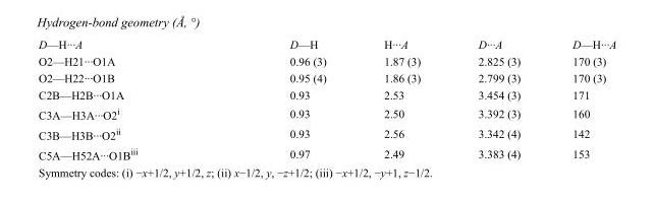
<table><tbody><tr><td>D—H···A</td><td>D—H</td><td>H···A</td><td>D···A</td><td>D—H···A</td></tr><tr><td>O2—H21···O1A</td><td>0.96 (3)</td><td>1.87 (3)</td><td>2.825 (3)</td><td>170 (3)</td></tr><tr><td>O2—H22···O1B</td><td>0.95 (4)</td><td>1.86 (3)</td><td>2.799 (3)</td><td>170 (3)</td></tr><tr><td>C2B—H2B···O1A</td><td>0.93</td><td>2.53</td><td>3.454 (3)</td><td>171</td></tr><tr><td>C3A—H3A···O2<sup>i</sup></td><td>0.93</td><td>2.50</td><td>3.392 (3)</td><td>160</td></tr><tr><td>C3B—H3B···O2<sup>ii</sup></td><td>0.93</td><td>2.56</td><td>3.342 (4)</td><td>142</td></tr><tr><td>C5A—H52A···O1B<sup>iii</sup></td><td>0.97</td><td>2.49</td><td>3.383 (4)</td><td>153</td></tr></tbody></table>